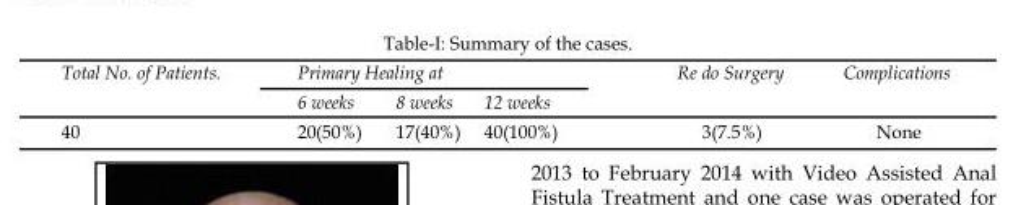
<table><thead><tr><td rowspan="2">Total No. of Patients.</td><td colspan="3">Primary Healing at</td><td rowspan="2">Re do Surgery</td><td rowspan="2">Complications</td></tr><tr><td>6 weeks</td><td>8 weeks</td><td>12 weeks</td></tr></thead><tbody><tr><td>40</td><td>20(50%)</td><td>17(40%)</td><td>40(100%)</td><td>3(7.5%)</td><td>None</td></tr></tbody></table>